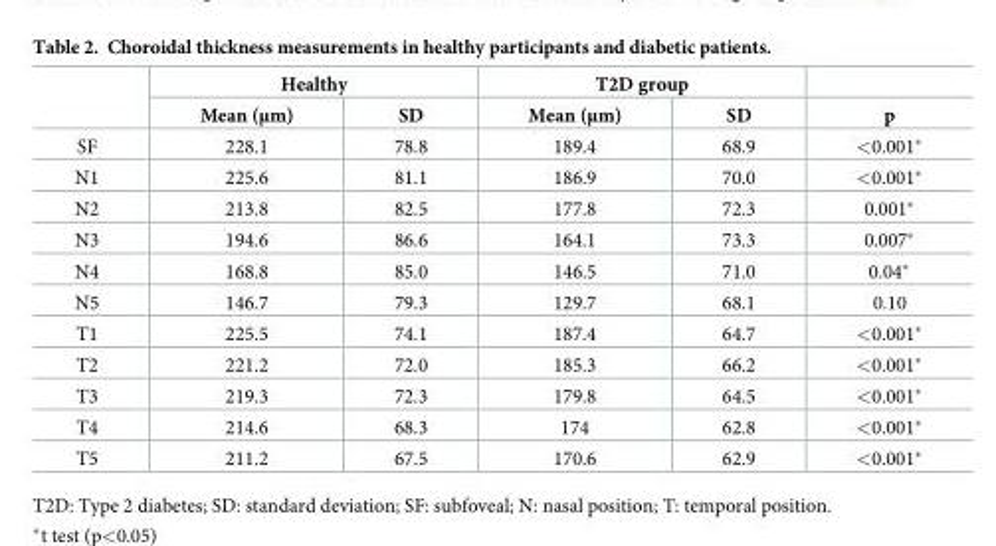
<table><thead><tr><td rowspan="2"></td><td colspan="2">Healthy</td><td colspan="2">T2D group</td><td rowspan="2">p</td></tr><tr><td>Mean (μm)</td><td>SD</td><td>Mean (μm)</td><td>SD</td></tr></thead><tbody><tr><td>SF</td><td>228.1</td><td>78.8</td><td>189.4</td><td>68.9</td><td>&lt;0.001*</td></tr><tr><td>N1</td><td>225.6</td><td>81.1</td><td>186.9</td><td>70.0</td><td>&lt;0.001*</td></tr><tr><td>N2</td><td>213.8</td><td>82.5</td><td>177.8</td><td>72.3</td><td>0.001*</td></tr><tr><td>N3</td><td>194.6</td><td>86.6</td><td>164.1</td><td>73.3</td><td>0.007*</td></tr><tr><td>N4</td><td>168.8</td><td>85.0</td><td>146.5</td><td>71.0</td><td>0.04*</td></tr><tr><td>N5</td><td>146.7</td><td>79.3</td><td>129.7</td><td>68.1</td><td>0.10</td></tr><tr><td>T1</td><td>225.5</td><td>74.1</td><td>187.4</td><td>64.7</td><td>&lt;0.001*</td></tr><tr><td>T2</td><td>221.2</td><td>72.0</td><td>185.3</td><td>66.2</td><td>&lt;0.001*</td></tr><tr><td>T3</td><td>219.3</td><td>72.3</td><td>179.8</td><td>64.5</td><td>&lt;0.001*</td></tr><tr><td>T4</td><td>214.6</td><td>68.3</td><td>174</td><td>62.8</td><td>&lt;0.001*</td></tr><tr><td>T5</td><td>211.2</td><td>67.5</td><td>170.6</td><td>62.9</td><td>&lt;0.001*</td></tr></tbody></table>